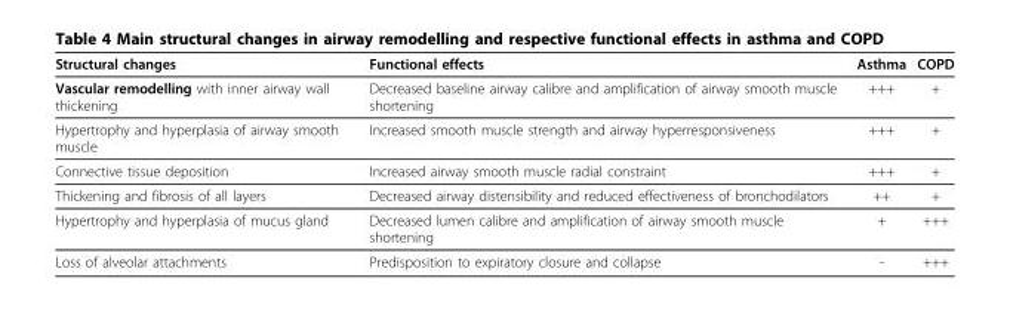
<table><thead><tr><td>Structural changes</td><td>Functional effects</td><td>Asthma</td><td>COPD</td></tr></thead><tbody><tr><td>Vascular remodelling with inner airway wall thickening</td><td>Decreased baseline airway calibre and amplification of airway smooth muscle shortening</td><td>+++</td><td>+</td></tr><tr><td>Hypertrophy and hyperplasia of airway smooth muscle</td><td>Increased smooth muscle strength and airway hyperresponsiveness</td><td>+++</td><td>+</td></tr><tr><td>Connective tissue deposition</td><td>Increased airway smooth muscle radial constraint</td><td>+++</td><td>+</td></tr><tr><td>Thickening and fibrosis of all layers</td><td>Decreased airway distensibility and reduced effectiveness of bronchodilators</td><td>++</td><td>+</td></tr><tr><td>Hypertrophy and hyperplasia of mucus gland</td><td>Decreased lumen calibre and amplification of airway smooth muscle shortening</td><td>+</td><td>+++</td></tr><tr><td>Loss of alveolar attachments</td><td>Predisposition to expiratory closure and collapse</td><td>-</td><td>+++</td></tr></tbody></table>